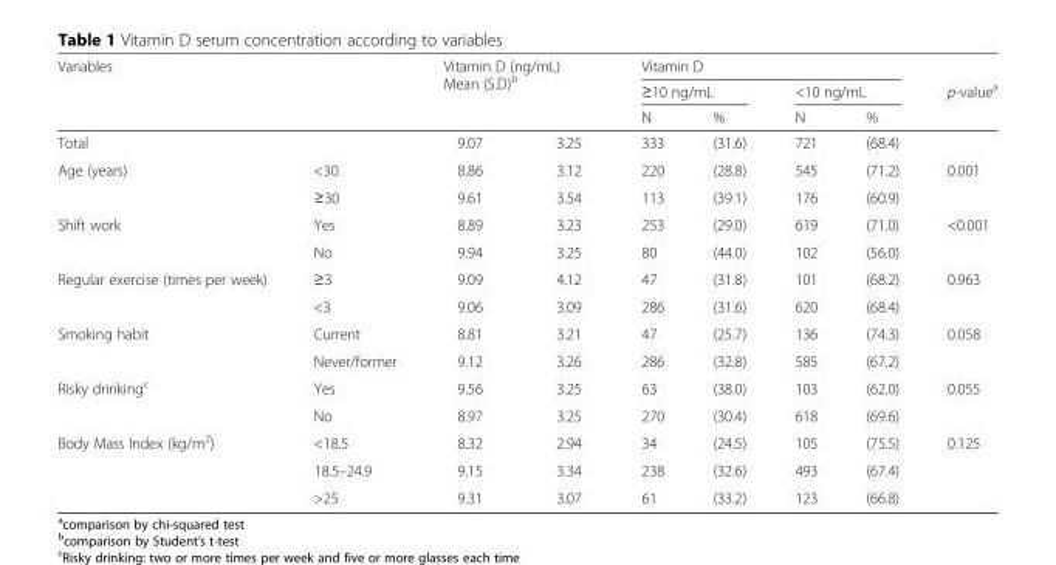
<table><thead><tr><td rowspan="4">Variables Total</td><td rowspan="4"></td><td rowspan="3" colspan="2">Vitamin D (ng/mL) Mean (S.D)<sup>b</sup></td><td colspan="4">Vitamin D</td><td rowspan="4">p-value<sup>a</sup></td></tr><tr><td colspan="2">≥10 ng/mL</td><td colspan="2">&lt;10 ng/mL</td></tr><tr><td rowspan="2">N 333</td><td rowspan="2">% (31.6)</td><td rowspan="2">N 721</td><td rowspan="2">% (68.4)</td></tr><tr><td>9.07</td><td>3.25</td></tr></thead><tbody><tr><td rowspan="2">Age (years)</td><td>&lt;30</td><td>8.86</td><td>3.12</td><td>220</td><td>(28.8)</td><td>545</td><td>(71.2)</td><td>0.001</td></tr><tr><td>≥30</td><td>9.61</td><td>3.54</td><td>113</td><td>(39.1)</td><td>176</td><td>(60.9)</td><td></td></tr><tr><td rowspan="2">Shift work</td><td>Yes</td><td>8.89</td><td>3.23</td><td>253</td><td>(29.0)</td><td>619</td><td>(71.0)</td><td>&lt;0.001</td></tr><tr><td>No</td><td>9.94</td><td>3.25</td><td>80</td><td>(44.0)</td><td>102</td><td>(56.0)</td><td></td></tr><tr><td rowspan="2">Regular exercise (times per week)</td><td>≥3</td><td>9.09</td><td>4.12</td><td>47</td><td>(31.8)</td><td>101</td><td>(68.2)</td><td>0.963</td></tr><tr><td>&lt;3</td><td>9.06</td><td>3.09</td><td>286</td><td>(31.6)</td><td>620</td><td>(68.4)</td><td></td></tr><tr><td rowspan="2">Smoking habit</td><td>Current</td><td>8.81</td><td>3.21</td><td>47</td><td>(25.7)</td><td>136</td><td>(74.3)</td><td>0.058</td></tr><tr><td>Never/former</td><td>9.12</td><td>3.26</td><td>286</td><td>(32.8)</td><td>585</td><td>(67.2)</td><td></td></tr><tr><td rowspan="2">Risky drinking<sup>c</sup></td><td>Yes</td><td>9.56</td><td>3.25</td><td>63</td><td>(38.0)</td><td>103</td><td>(62.0)</td><td>0.055</td></tr><tr><td>No</td><td>8.97</td><td>3.25</td><td>270</td><td>(30.4)</td><td>618</td><td>(69.6)</td><td></td></tr><tr><td rowspan="3">Body Mass Index (kg/m<sup>2</sup>)</td><td>&lt;18.5</td><td>8.32</td><td>2.94</td><td>34</td><td>(24.5)</td><td>105</td><td>(75.5)</td><td>0.125</td></tr><tr><td>18.5–24.9</td><td>9.15</td><td>3.34</td><td>238</td><td>(32.6)</td><td>493</td><td>(67.4)</td><td></td></tr><tr><td>&gt;25</td><td>9.31</td><td>3.07</td><td>61</td><td>(33.2)</td><td>123</td><td>(66.8)</td><td></td></tr></tbody></table>